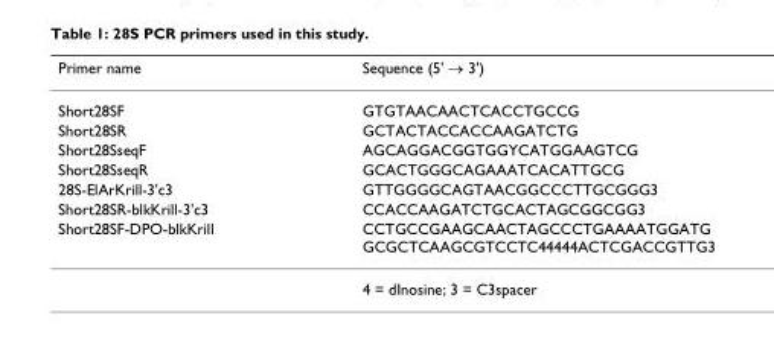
<table><thead><tr><td>Primer name</td><td>Sequence (5&#x27; → 3&#x27;)</td></tr></thead><tbody><tr><td>Short28SF</td><td>GTGTAACAACTCACCTGCCG</td></tr><tr><td>Short28SR</td><td>GCTACTACCACCAAGATCTG</td></tr><tr><td>Short28SseqF</td><td>AGCAGGACGGTGGYCATGGAAGTCG</td></tr><tr><td>Short28SseqR</td><td>GCACTGGGCAGAAATCACATTGCG</td></tr><tr><td>28S-ElArKrill-3&#x27;c3</td><td>GTTGGGGCAGTAACGGCCCTTGCGGG3</td></tr><tr><td>Short28SR-blkKrill-3&#x27;c3</td><td>CCACCAAGATCTGCACTAGCGGCGG3</td></tr><tr><td rowspan="2">Short28SF-DPO-blkKrill</td><td>CCTGCCGAAGCAACTAGCCCTGAAAATGGATG GCGCTCAAGCGTCCTC44444ACTCGACCGTTG3</td></tr><tr><td>4 = dInosine; 3 = C3spacer</td></tr></tbody></table>